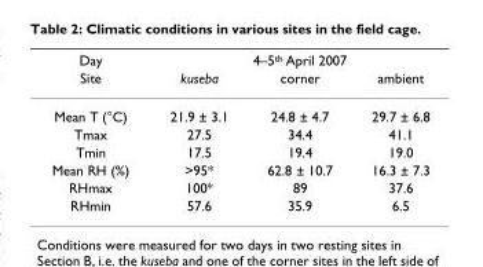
<table><thead><tr><td rowspan="2">Day Site</td><td colspan="3">4–5<sup>th</sup> April 2007</td></tr><tr><td>kuseba</td><td>corner</td><td>ambient</td></tr></thead><tbody><tr><td>Mean T (°C)</td><td>21.9 ± 3.1</td><td>24.8 ± 4.7</td><td>29.7 ± 6.8</td></tr><tr><td>Tmax</td><td>27.5</td><td>34.4</td><td>41.1</td></tr><tr><td>Tmin</td><td>17.5</td><td>19.4</td><td>19.0</td></tr><tr><td>Mean RH (%)</td><td>&gt;95*</td><td>62.8 ± 10.7</td><td>16.3 ± 7.3</td></tr><tr><td>RHmax</td><td>100*</td><td>89</td><td>37.6</td></tr><tr><td>RHmin</td><td>57.6</td><td>35.9</td><td>6.5</td></tr></tbody></table>